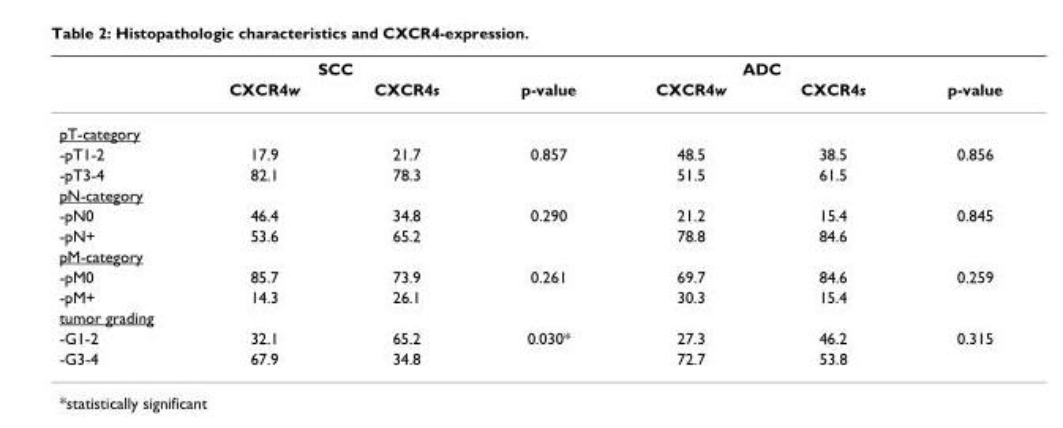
<table><thead><tr><td rowspan="2"></td><td colspan="2">SCC</td><td rowspan="2">p-value</td><td colspan="2">ADC</td><td rowspan="2">p-value</td></tr><tr><td>CXCR4w</td><td>CXCR4s</td><td>CXCR4w</td><td>CXCR4s</td></tr></thead><tbody><tr><td colspan="7">pT-category</td></tr><tr><td>-pT1-2</td><td>17.9</td><td>21.7</td><td>0.857</td><td>48.5</td><td>38.5</td><td>0.856</td></tr><tr><td>-pT3-4</td><td>82.1</td><td>78.3</td><td></td><td>51.5</td><td>61.5</td><td></td></tr><tr><td colspan="7">pN-category</td></tr><tr><td>-pN0</td><td>46.4</td><td>34.8</td><td>0.290</td><td>21.2</td><td>15.4</td><td>0.845</td></tr><tr><td>-pN+</td><td>53.6</td><td>65.2</td><td></td><td>78.8</td><td>84.6</td><td></td></tr><tr><td colspan="7">pM-category</td></tr><tr><td>-pM0</td><td>85.7</td><td>73.9</td><td>0.261</td><td>69.7</td><td>84.6</td><td>0.259</td></tr><tr><td>-pM+</td><td>14.3</td><td>26.1</td><td></td><td>30.3</td><td>15.4</td><td></td></tr><tr><td colspan="7">tumor grading</td></tr><tr><td>-G1-2</td><td>32.1</td><td>65.2</td><td>0.030*</td><td>27.3</td><td>46.2</td><td>0.315</td></tr><tr><td>-G3-4</td><td>67.9</td><td>34.8</td><td></td><td>72.7</td><td>53.8</td><td></td></tr></tbody></table>